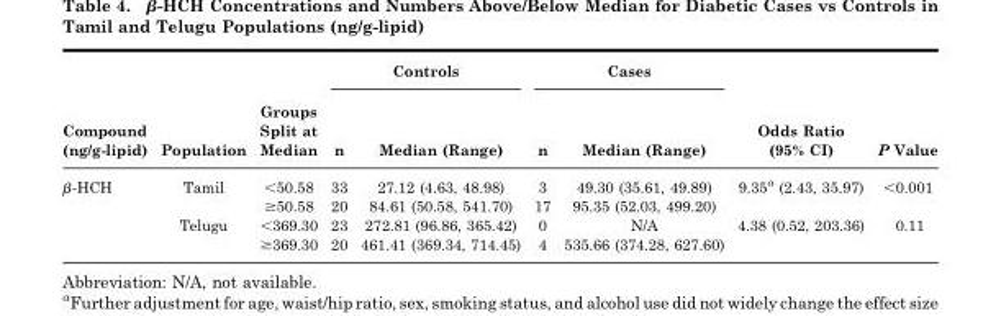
<table><thead><tr><td rowspan="2">Compound (ng/g-lipid)</td><td rowspan="2">Population</td><td rowspan="2">Groups Split at Median</td><td colspan="2">Controls</td><td colspan="2">Cases</td><td rowspan="2">Odds Ratio (95% CI)</td><td rowspan="2">P Value</td></tr><tr><td>n</td><td>Median (Range)</td><td>n</td><td>Median (Range)</td></tr></thead><tbody><tr><td rowspan="4">β-HCH</td><td rowspan="2">Tamil</td><td>&lt;50.58</td><td>33</td><td>27.12 (4.63, 48.98)</td><td>3</td><td>49.30 (35.61, 49.89)</td><td rowspan="2">9.35<sup>a</sup> (2.43, 35.97)</td><td rowspan="2">&lt;0.001</td></tr><tr><td>≥50.58</td><td>20</td><td>84.61 (50.58, 541.70)</td><td>17</td><td>95.35 (52.03, 499.20)</td></tr><tr><td rowspan="2">Telugu</td><td>&lt;369.30</td><td>23</td><td>272.81 (96.86, 365.42)</td><td>0</td><td>N/A</td><td rowspan="2">4.38 (0.52, 203.36)</td><td rowspan="2">0.11</td></tr><tr><td>≥369.30</td><td>20</td><td>461.41 (369.34, 714.45)</td><td>4</td><td>535.66 (374.28, 627.60)</td></tr></tbody></table>